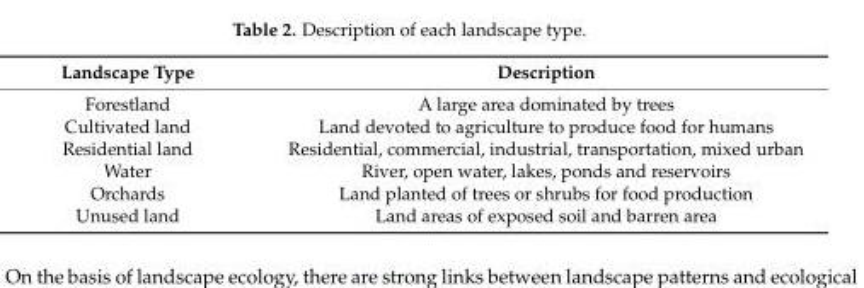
<table><thead><tr><td>Landscape Type</td><td>Description</td></tr></thead><tbody><tr><td>Forestland</td><td>A large area dominated by trees</td></tr><tr><td>Cultivated land</td><td>Land devoted to agriculture to produce food for humans</td></tr><tr><td>Residential land</td><td>Residential, commercial, industrial, transportation, mixed urban</td></tr><tr><td>Water</td><td>River, open water, lakes, ponds and reservoirs</td></tr><tr><td>Orchards</td><td>Land planted of trees or shrubs for food production</td></tr><tr><td>Unused land</td><td>Land areas of exposed soil and barren area</td></tr></tbody></table>